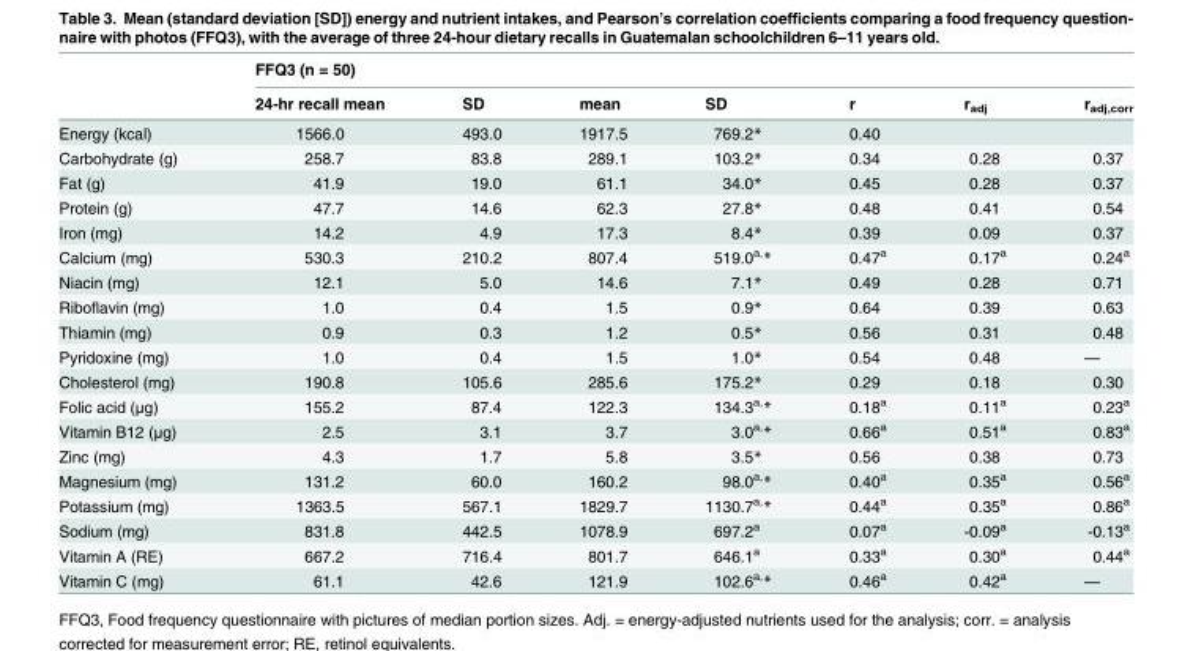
<table><thead><tr><td rowspan="2"></td><td colspan="7">FFQ3 (n = 50)</td></tr><tr><td>24-hr recall mean</td><td>SD</td><td>mean</td><td>SD</td><td>r</td><td>r<sub>adj</sub></td><td>r<sub>adj,corr</sub></td></tr></thead><tbody><tr><td>Energy (kcal)</td><td>1566.0</td><td>493.0</td><td>1917.5</td><td>769.2*</td><td>0.40</td><td></td><td></td></tr><tr><td>Carbohydrate (g)</td><td>258.7</td><td>83.8</td><td>289.1</td><td>103.2*</td><td>0.34</td><td>0.28</td><td>0.37</td></tr><tr><td>Fat (g)</td><td>41.9</td><td>19.0</td><td>61.1</td><td>34.0*</td><td>0.45</td><td>0.28</td><td>0.37</td></tr><tr><td>Protein (g)</td><td>47.7</td><td>14.6</td><td>62.3</td><td>27.8*</td><td>0.48</td><td>0.41</td><td>0.54</td></tr><tr><td>Iron (mg)</td><td>14.2</td><td>4.9</td><td>17.3</td><td>8.4*</td><td>0.39</td><td>0.09</td><td>0.37</td></tr><tr><td>Calcium (mg)</td><td>530.3</td><td>210.2</td><td>807.4</td><td>519.0<sup>a,</sup>*</td><td>0.47<sup>a</sup></td><td>0.17<sup>a</sup></td><td>0.24<sup>a</sup></td></tr><tr><td>Niacin (mg)</td><td>12.1</td><td>5.0</td><td>14.6</td><td>7.1*</td><td>0.49</td><td>0.28</td><td>0.71</td></tr><tr><td>Riboflavin (mg)</td><td>1.0</td><td>0.4</td><td>1.5</td><td>0.9*</td><td>0.64</td><td>0.39</td><td>0.63</td></tr><tr><td>Thiamin (mg)</td><td>0.9</td><td>0.3</td><td>1.2</td><td>0.5*</td><td>0.56</td><td>0.31</td><td>0.48</td></tr><tr><td>Pyridoxine (mg)</td><td>1.0</td><td>0.4</td><td>1.5</td><td>1.0*</td><td>0.54</td><td>0.48</td><td>—</td></tr><tr><td>Cholesterol (mg)</td><td>190.8</td><td>105.6</td><td>285.6</td><td>175.2*</td><td>0.29</td><td>0.18</td><td>0.30</td></tr><tr><td>Folic acid (μg)</td><td>155.2</td><td>87.4</td><td>122.3</td><td>134.3<sup>a,</sup>*</td><td>0.18<sup>a</sup></td><td>0.11<sup>a</sup></td><td>0.23<sup>a</sup></td></tr><tr><td>Vitamin B12 (μg)</td><td>2.5</td><td>3.1</td><td>3.7</td><td>3.0<sup>a,</sup>*</td><td>0.66<sup>a</sup></td><td>0.51<sup>a</sup></td><td>0.83<sup>a</sup></td></tr><tr><td>Zinc (mg)</td><td>4.3</td><td>1.7</td><td>5.8</td><td>3.5*</td><td>0.56</td><td>0.38</td><td>0.73</td></tr><tr><td>Magnesium (mg)</td><td>131.2</td><td>60.0</td><td>160.2</td><td>98.0<sup>a,</sup>*</td><td>0.40<sup>a</sup></td><td>0.35<sup>a</sup></td><td>0.56<sup>a</sup></td></tr><tr><td>Potassium (mg)</td><td>1363.5</td><td>567.1</td><td>1829.7</td><td>1130.7<sup>a,</sup>*</td><td>0.44<sup>a</sup></td><td>0.35<sup>a</sup></td><td>0.86<sup>a</sup></td></tr><tr><td>Sodium (mg)</td><td>831.8</td><td>442.5</td><td>1078.9</td><td>697.2<sup>a</sup></td><td>0.07<sup>a</sup></td><td>-0.09<sup>a</sup></td><td>-0.13<sup>a</sup></td></tr><tr><td>Vitamin A (RE)</td><td>667.2</td><td>716.4</td><td>801.7</td><td>646.1<sup>a</sup></td><td>0.33<sup>a</sup></td><td>0.30<sup>a</sup></td><td>0.44<sup>a</sup></td></tr><tr><td>Vitamin C (mg)</td><td>61.1</td><td>42.6</td><td>121.9</td><td>102.6<sup>a,</sup>*</td><td>0.46<sup>a</sup></td><td>0.42<sup>a</sup></td><td>—</td></tr></tbody></table>